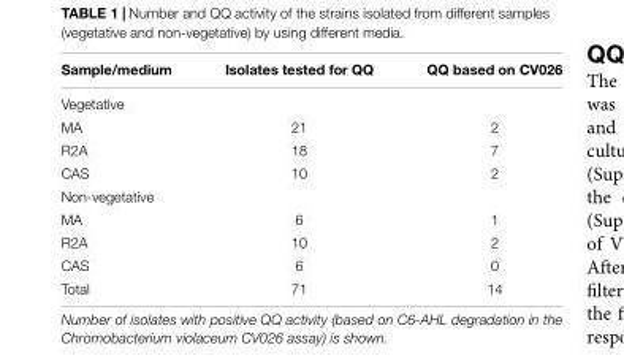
<table><thead><tr><td>Sample/medium</td><td>Isolates tested for QQ</td><td>QQ based on CV026</td></tr></thead><tbody><tr><td colspan="3">Vegetative</td></tr><tr><td>MA</td><td>21</td><td>2</td></tr><tr><td>R2A</td><td>18</td><td>7</td></tr><tr><td>CAS</td><td>10</td><td>2</td></tr><tr><td colspan="3">Non-vegetative</td></tr><tr><td>MA</td><td>6</td><td>1</td></tr><tr><td>R2A</td><td>10</td><td>2</td></tr><tr><td>CAS</td><td>6</td><td>0</td></tr><tr><td>Total</td><td>71</td><td>14</td></tr></tbody></table>